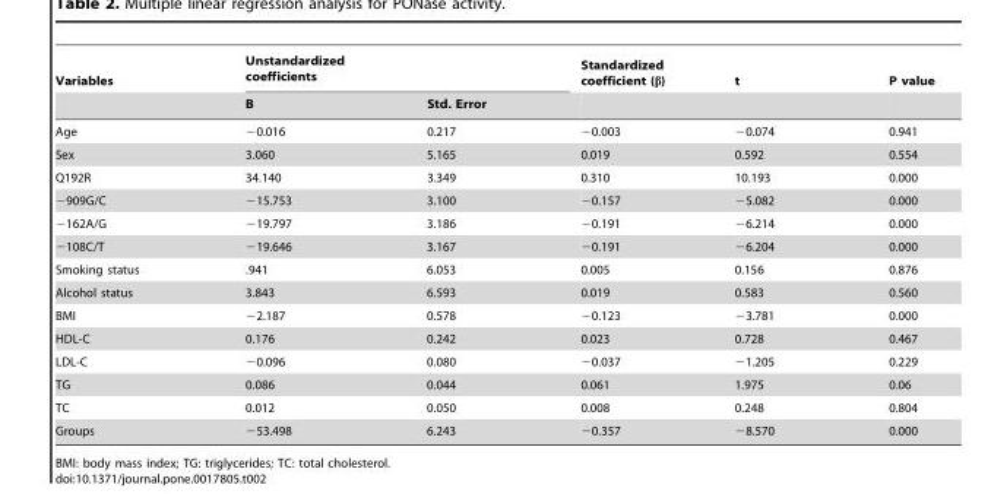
<table><thead><tr><td rowspan="2">Variables</td><td colspan="2">Unstandardized coefficients</td><td rowspan="2">Standardized coefficient (β)</td><td rowspan="2">t</td><td rowspan="2">P value</td></tr><tr><td>B</td><td>Std. Error</td></tr></thead><tbody><tr><td>Age</td><td>−0.016</td><td>0.217</td><td>−0.003</td><td>−0.074</td><td>0.941</td></tr><tr><td>Sex</td><td>3.060</td><td>5.165</td><td>0.019</td><td>0.592</td><td>0.554</td></tr><tr><td>Q192R</td><td>34.140</td><td>3.349</td><td>0.310</td><td>10.193</td><td>0.000</td></tr><tr><td>−909G/C</td><td>−15.753</td><td>3.100</td><td>−0.157</td><td>−5.082</td><td>0.000</td></tr><tr><td>−162A/G</td><td>−19.797</td><td>3.186</td><td>−0.191</td><td>−6.214</td><td>0.000</td></tr><tr><td>−108C/T</td><td>−19.646</td><td>3.167</td><td>−0.191</td><td>−6.204</td><td>0.000</td></tr><tr><td>Smoking status</td><td>.941</td><td>6.053</td><td>0.005</td><td>0.156</td><td>0.876</td></tr><tr><td>Alcohol status</td><td>3.843</td><td>6.593</td><td>0.019</td><td>0.583</td><td>0.560</td></tr><tr><td>BMI</td><td>−2.187</td><td>0.578</td><td>−0.123</td><td>−3.781</td><td>0.000</td></tr><tr><td>HDL-C</td><td>0.176</td><td>0.242</td><td>0.023</td><td>0.728</td><td>0.467</td></tr><tr><td>LDL-C</td><td>−0.096</td><td>0.080</td><td>−0.037</td><td>−1.205</td><td>0.229</td></tr><tr><td>TG</td><td>0.086</td><td>0.044</td><td>0.061</td><td>1.975</td><td>0.06</td></tr><tr><td>TC</td><td>0.012</td><td>0.050</td><td>0.008</td><td>0.248</td><td>0.804</td></tr><tr><td>Groups</td><td>−53.498</td><td>6.243</td><td>−0.357</td><td>−8.570</td><td>0.000</td></tr></tbody></table>